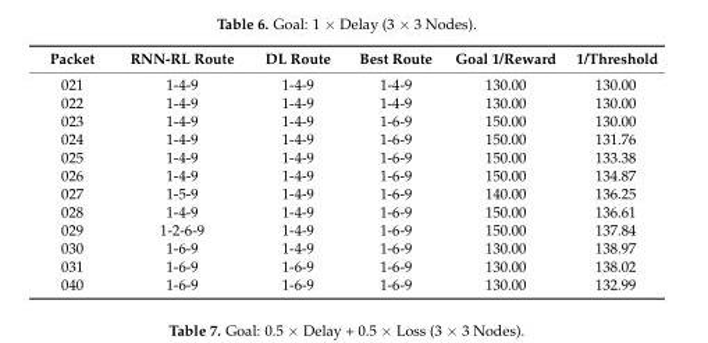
<table><thead><tr><td>Packet</td><td>RNN-RL Route</td><td>DL Route</td><td>Best Route</td><td>Goal 1/Reward</td><td>1/Threshold</td></tr></thead><tbody><tr><td>021</td><td>1-4-9</td><td>1-4-9</td><td>1-4-9</td><td>130.00</td><td>130.00</td></tr><tr><td>022</td><td>1-4-9</td><td>1-4-9</td><td>1-4-9</td><td>130.00</td><td>130.00</td></tr><tr><td>023</td><td>1-4-9</td><td>1-4-9</td><td>1-6-9</td><td>150.00</td><td>130.00</td></tr><tr><td>024</td><td>1-4-9</td><td>1-4-9</td><td>1-6-9</td><td>150.00</td><td>131.76</td></tr><tr><td>025</td><td>1-4-9</td><td>1-4-9</td><td>1-6-9</td><td>150.00</td><td>133.38</td></tr><tr><td>026</td><td>1-4-9</td><td>1-4-9</td><td>1-6-9</td><td>150.00</td><td>134.87</td></tr><tr><td>027</td><td>1-5-9</td><td>1-4-9</td><td>1-6-9</td><td>140.00</td><td>136.25</td></tr><tr><td>028</td><td>1-4-9</td><td>1-4-9</td><td>1-6-9</td><td>150.00</td><td>136.61</td></tr><tr><td>029</td><td>1-2-6-9</td><td>1-4-9</td><td>1-6-9</td><td>150.00</td><td>137.84</td></tr><tr><td>030</td><td>1-6-9</td><td>1-4-9</td><td>1-6-9</td><td>130.00</td><td>138.97</td></tr><tr><td>031</td><td>1-6-9</td><td>1-6-9</td><td>1-6-9</td><td>130.00</td><td>138.02</td></tr><tr><td>040</td><td>1-6-9</td><td>1-6-9</td><td>1-6-9</td><td>130.00</td><td>132.99</td></tr></tbody></table>